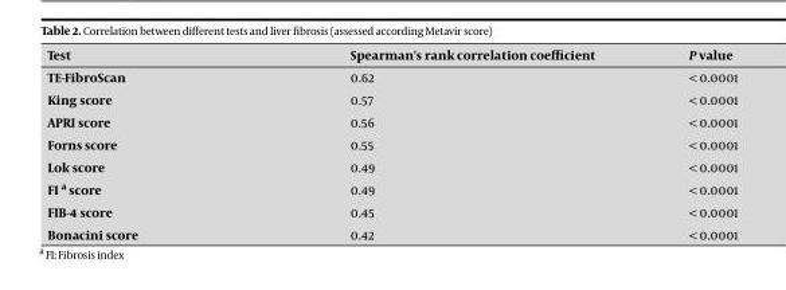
<table><thead><tr><td>Test</td><td>Spearman&#x27;s rank correlation coefficient</td><td>P value</td></tr></thead><tbody><tr><td>TE-FibroScan</td><td>0.62</td><td>&lt; 0.0001</td></tr><tr><td>King score</td><td>0.57</td><td>&lt; 0.0001</td></tr><tr><td>APRI score</td><td>0.56</td><td>&lt; 0.0001</td></tr><tr><td>Forns score</td><td>0.55</td><td>&lt; 0.0001</td></tr><tr><td>Lok score</td><td>0.49</td><td>&lt; 0.0001</td></tr><tr><td>FI a score</td><td>0.49</td><td>&lt; 0.0001</td></tr><tr><td>FIB-4 score</td><td>0.45</td><td>&lt; 0.0001</td></tr><tr><td>Bonacini score</td><td>0.42</td><td>&lt; 0.0001</td></tr></tbody></table>